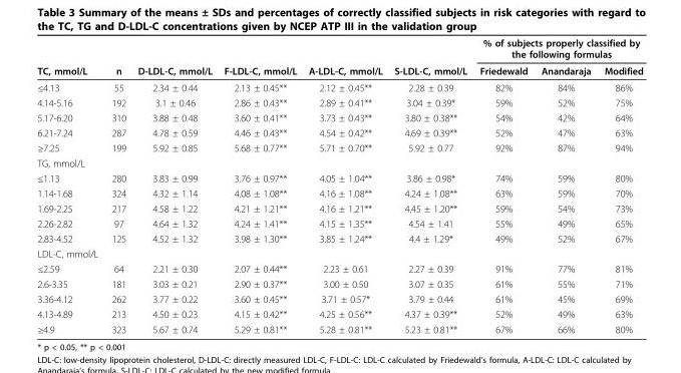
<table><thead><tr><td rowspan="2">TC, mmol/L</td><td rowspan="2">n</td><td rowspan="2">D-LDL-C, mmol/L</td><td rowspan="2">F-LDL-C, mmol/L</td><td rowspan="2">A-LDL-C, mmol/L</td><td rowspan="2">S-LDL-C, mmol/L</td><td colspan="3">% of subjects properly classified by the following formulas</td></tr><tr><td>Friedewald</td><td>Anandaraja</td><td>Modified</td></tr></thead><tbody><tr><td>≤4.13</td><td>55</td><td>2.34 ± 0.44</td><td>2.13 ± 0.45**</td><td>2.12 ± 0.45**</td><td>2.28 ± 0.39</td><td>82%</td><td>84%</td><td>86%</td></tr><tr><td>4.14-5.16</td><td>192</td><td>3.1 ± 0.46</td><td>2.86 ± 0.43**</td><td>2.89 ± 0.41**</td><td>3.04 ± 0.39*</td><td>59%</td><td>52%</td><td>75%</td></tr><tr><td>5.17-6.20</td><td>310</td><td>3.88 ± 0.48</td><td>3.60 ± 0.41**</td><td>3.73 ± 0.43**</td><td>3.80 ± 0.38**</td><td>54%</td><td>42%</td><td>64%</td></tr><tr><td>6.21-7.24</td><td>287</td><td>4.78 ± 0.59</td><td>4.46 ± 0.43**</td><td>4.54 ± 0.42**</td><td>4.69 ± 0.39**</td><td>52%</td><td>47%</td><td>63%</td></tr><tr><td>≥7.25</td><td>199</td><td>5.92 ± 0.85</td><td>5.68 ± 0.77**</td><td>5.71 ± 0.70**</td><td>5.92 ± 0.77</td><td>92%</td><td>87%</td><td>94%</td></tr><tr><td colspan="9">TG, mmol/L</td></tr><tr><td>≤1.13</td><td>280</td><td>3.83 ± 0.99</td><td>3.76 ± 0.97**</td><td>4.05 ± 1.04**</td><td>3.86 ± 0.98*</td><td>74%</td><td>59%</td><td>80%</td></tr><tr><td>1.14-1.68</td><td>324</td><td>4.32 ± 1.14</td><td>4.08 ± 1.08**</td><td>4.16 ± 1.08**</td><td>4.24 ± 1.08**</td><td>63%</td><td>59%</td><td>70%</td></tr><tr><td>1.69-2.25</td><td>217</td><td>4.58 ± 1.22</td><td>4.21 ± 1.21**</td><td>4.16 ± 1.21**</td><td>4.45 ± 1.20**</td><td>59%</td><td>54%</td><td>73%</td></tr><tr><td>2.26-2.82</td><td>97</td><td>4.64 ± 1.32</td><td>4.24 ± 1.41**</td><td>4.15 ± 1.35**</td><td>4.54 ± 1.41</td><td>55%</td><td>49%</td><td>65%</td></tr><tr><td>2.83-4.52</td><td>125</td><td>4.52 ± 1.32</td><td>3.98 ± 1.30**</td><td>3.85 ± 1.24**</td><td>4.4 ± 1.29*</td><td>49%</td><td>52%</td><td>67%</td></tr><tr><td colspan="9">LDL-C, mmol/L</td></tr><tr><td>≤2.59</td><td>64</td><td>2.21 ± 0.30</td><td>2.07 ± 0.44**</td><td>2.23 ± 0.61</td><td>2.27 ± 0.39</td><td>91%</td><td>77%</td><td>81%</td></tr><tr><td>2.6-3.35</td><td>181</td><td>3.03 ± 0.21</td><td>2.90 ± 0.37**</td><td>3.00 ± 0.50</td><td>3.07 ± 0.35</td><td>61%</td><td>55%</td><td>71%</td></tr><tr><td>3.36-4.12</td><td>262</td><td>3.77 ± 0.22</td><td>3.60 ± 0.45**</td><td>3.71 ± 0.57*</td><td>3.79 ± 0.44</td><td>61%</td><td>45%</td><td>69%</td></tr><tr><td>4.13-4.89</td><td>213</td><td>4.50 ± 0.23</td><td>4.15 ± 0.42**</td><td>4.25 ± 0.56**</td><td>4.37 ± 0.39**</td><td>52%</td><td>49%</td><td>63%</td></tr><tr><td>≥4.9</td><td>323</td><td>5.67 ± 0.74</td><td>5.29 ± 0.81**</td><td>5.28 ± 0.81**</td><td>5.23 ± 0.81**</td><td>67%</td><td>66%</td><td>80%</td></tr></tbody></table>